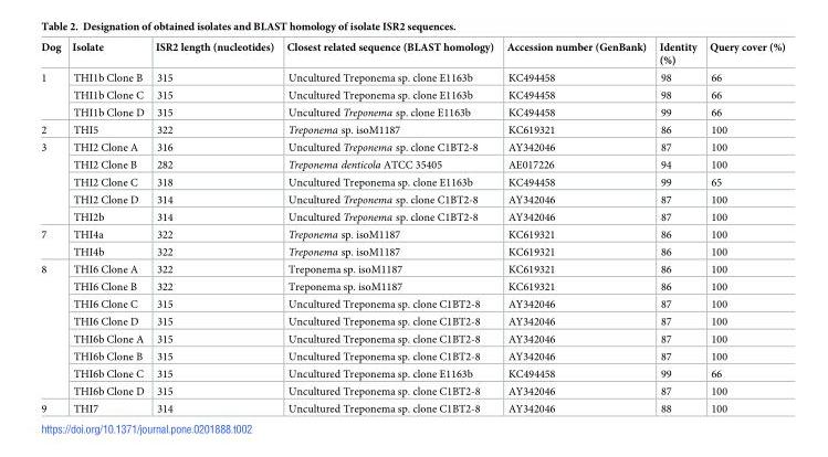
<table><thead><tr><td>Dog</td><td>Isolate</td><td>ISR2 length (nucleotides)</td><td>Closest related sequence (BLAST homology)</td><td>Accession number (GenBank)</td><td>Identity (%)</td><td>Query cover (%)</td></tr></thead><tbody><tr><td rowspan="3">1</td><td>THI1b Clone B</td><td>315</td><td>Uncultured Treponema sp. clone E1163b</td><td>KC494458</td><td>98</td><td>66</td></tr><tr><td>THI1b Clone C</td><td>315</td><td>Uncultured Treponema sp. clone E1163b</td><td>KC494458</td><td>98</td><td>66</td></tr><tr><td>THI1b Clone D</td><td>315</td><td>Uncultured Treponema sp. clone E1163b</td><td>KC494458</td><td>99</td><td>66</td></tr><tr><td>2</td><td>THI5</td><td>322</td><td>Treponema sp. isoM1187</td><td>KC619321</td><td>86</td><td>100</td></tr><tr><td rowspan="5">3</td><td>THI2 Clone A</td><td>316</td><td>Uncultured Treponema sp. clone C1BT2-8</td><td>AY342046</td><td>87</td><td>100</td></tr><tr><td>THI2 Clone B</td><td>282</td><td>Treponema denticola ATCC 35405</td><td>AE017226</td><td>94</td><td>100</td></tr><tr><td>THI2 Clone C</td><td>318</td><td>Uncultured Treponema sp. clone E1163b</td><td>KC494458</td><td>99</td><td>65</td></tr><tr><td>THI2 Clone D</td><td>314</td><td>Uncultured Treponema sp. clone C1BT2-8</td><td>AY342046</td><td>87</td><td>100</td></tr><tr><td>THI2b</td><td>314</td><td>Uncultured Treponema sp. clone C1BT2-8</td><td>AY342046</td><td>87</td><td>100</td></tr><tr><td rowspan="2">7</td><td>THI4a</td><td>322</td><td>Treponema sp. isoM1187</td><td>KC619321</td><td>86</td><td>100</td></tr><tr><td>THI4b</td><td>322</td><td>Treponema sp. isoM1187</td><td>KC619321</td><td>86</td><td>100</td></tr><tr><td rowspan="8">8</td><td>THI6 Clone A</td><td>322</td><td>Treponema sp. isoM1187</td><td>KC619321</td><td>86</td><td>100</td></tr><tr><td>THI6 Clone B</td><td>322</td><td>Treponema sp. isoM1187</td><td>KC619321</td><td>86</td><td>100</td></tr><tr><td>THI6 Clone C</td><td>315</td><td>Uncultured Treponema sp. clone C1BT2-8</td><td>AY342046</td><td>87</td><td>100</td></tr><tr><td>THI6 Clone D</td><td>315</td><td>Uncultured Treponema sp. clone C1BT2-8</td><td>AY342046</td><td>87</td><td>100</td></tr><tr><td>THI6b Clone A</td><td>315</td><td>Uncultured Treponema sp. clone C1BT2-8</td><td>AY342046</td><td>87</td><td>100</td></tr><tr><td>THI6b Clone B</td><td>315</td><td>Uncultured Treponema sp. clone C1BT2-8</td><td>AY342046</td><td>87</td><td>100</td></tr><tr><td>THI6b Clone C</td><td>315</td><td>Uncultured Treponema sp. clone E1163b</td><td>KC494458</td><td>99</td><td>66</td></tr><tr><td>THI6b Clone D</td><td>315</td><td>Uncultured Treponema sp. clone C1BT2-8</td><td>AY342046</td><td>87</td><td>100</td></tr><tr><td>9</td><td>THI7</td><td>314</td><td>Uncultured Treponema sp. clone C1BT2-8</td><td>AY342046</td><td>88</td><td>100</td></tr></tbody></table>